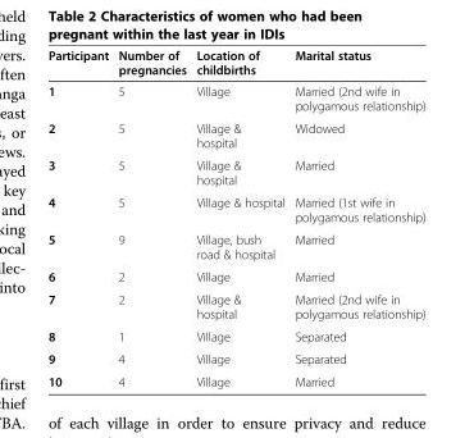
<table><thead><tr><td>Participant</td><td>Number of pregnancies</td><td>Location of childbirths</td><td>Marital status</td></tr></thead><tbody><tr><td>1</td><td>5</td><td>Village</td><td>Married (2nd wife in polygamous relationship)</td></tr><tr><td>2</td><td>5</td><td>Village &amp; hospital</td><td>Widowed</td></tr><tr><td>3</td><td>5</td><td>Village &amp; hospital</td><td>Married</td></tr><tr><td>4</td><td>5</td><td>Village &amp; hospital</td><td>Married (1st wife in polygamous relationship)</td></tr><tr><td>5</td><td>9</td><td>Village, bush road &amp; hospital</td><td>Married</td></tr><tr><td>6</td><td>2</td><td>Village</td><td>Married</td></tr><tr><td>7</td><td>2</td><td>Village &amp; hospital</td><td>Married (2nd wife in polygamous relationship)</td></tr><tr><td>8</td><td>1</td><td>Village</td><td>Separated</td></tr><tr><td>9</td><td>4</td><td>Village</td><td>Separated</td></tr><tr><td>10</td><td>4</td><td>Village</td><td>Married</td></tr></tbody></table>